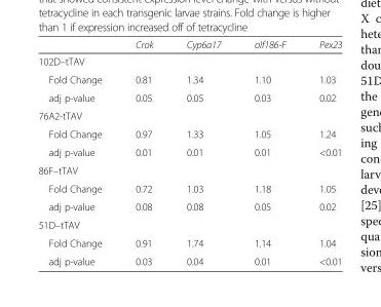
<table><thead><tr><td></td><td>Crok</td><td>Cyp6a17</td><td>olf186-F</td><td>Pex23</td></tr></thead><tbody><tr><td colspan="5">102D–tTAV</td></tr><tr><td>Fold Change</td><td>0.81</td><td>1.34</td><td>1.10</td><td>1.03</td></tr><tr><td>adj p-value</td><td>0.05</td><td>0.05</td><td>0.03</td><td>0.02</td></tr><tr><td colspan="5">76A2-tTAV</td></tr><tr><td>Fold Change</td><td>0.97</td><td>1.33</td><td>1.05</td><td>1.24</td></tr><tr><td>adj p-value</td><td>0.01</td><td>0.01</td><td>0.01</td><td>&lt;0.01</td></tr><tr><td colspan="5">86F–tTAV</td></tr><tr><td>Fold Change</td><td>0.72</td><td>1.03</td><td>1.18</td><td>1.05</td></tr><tr><td>adj p-value</td><td>0.08</td><td>0.08</td><td>0.05</td><td>0.02</td></tr><tr><td colspan="5">51D–tTAV</td></tr><tr><td>Fold Change</td><td>0.91</td><td>1.74</td><td>1.14</td><td>1.04</td></tr><tr><td>adj p-value</td><td>0.03</td><td>0.04</td><td>0.01</td><td>&lt;0.01</td></tr></tbody></table>